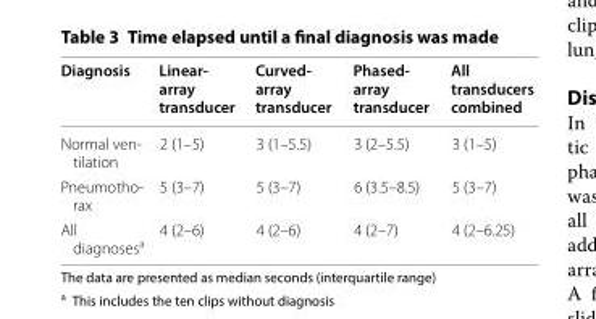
<table><thead><tr><td>Diagnosis</td><td>Linear- array transducer</td><td>Curved- array transducer</td><td>Phased- array transducer</td><td>All transducers combined</td></tr></thead><tbody><tr><td>Normal ven- tilation</td><td>2 (1–5)</td><td>3 (1–5.5)</td><td>3 (2–5.5)</td><td>3 (1–5)</td></tr><tr><td>Pneumotho- rax</td><td>5 (3–7)</td><td>5 (3–7)</td><td>6 (3.5–8.5)</td><td>5 (3–7)</td></tr><tr><td>All diagnoses<sup>a</sup></td><td>4 (2–6)</td><td>4 (2–6)</td><td>4 (2–7)</td><td>4 (2–6.25)</td></tr></tbody></table>